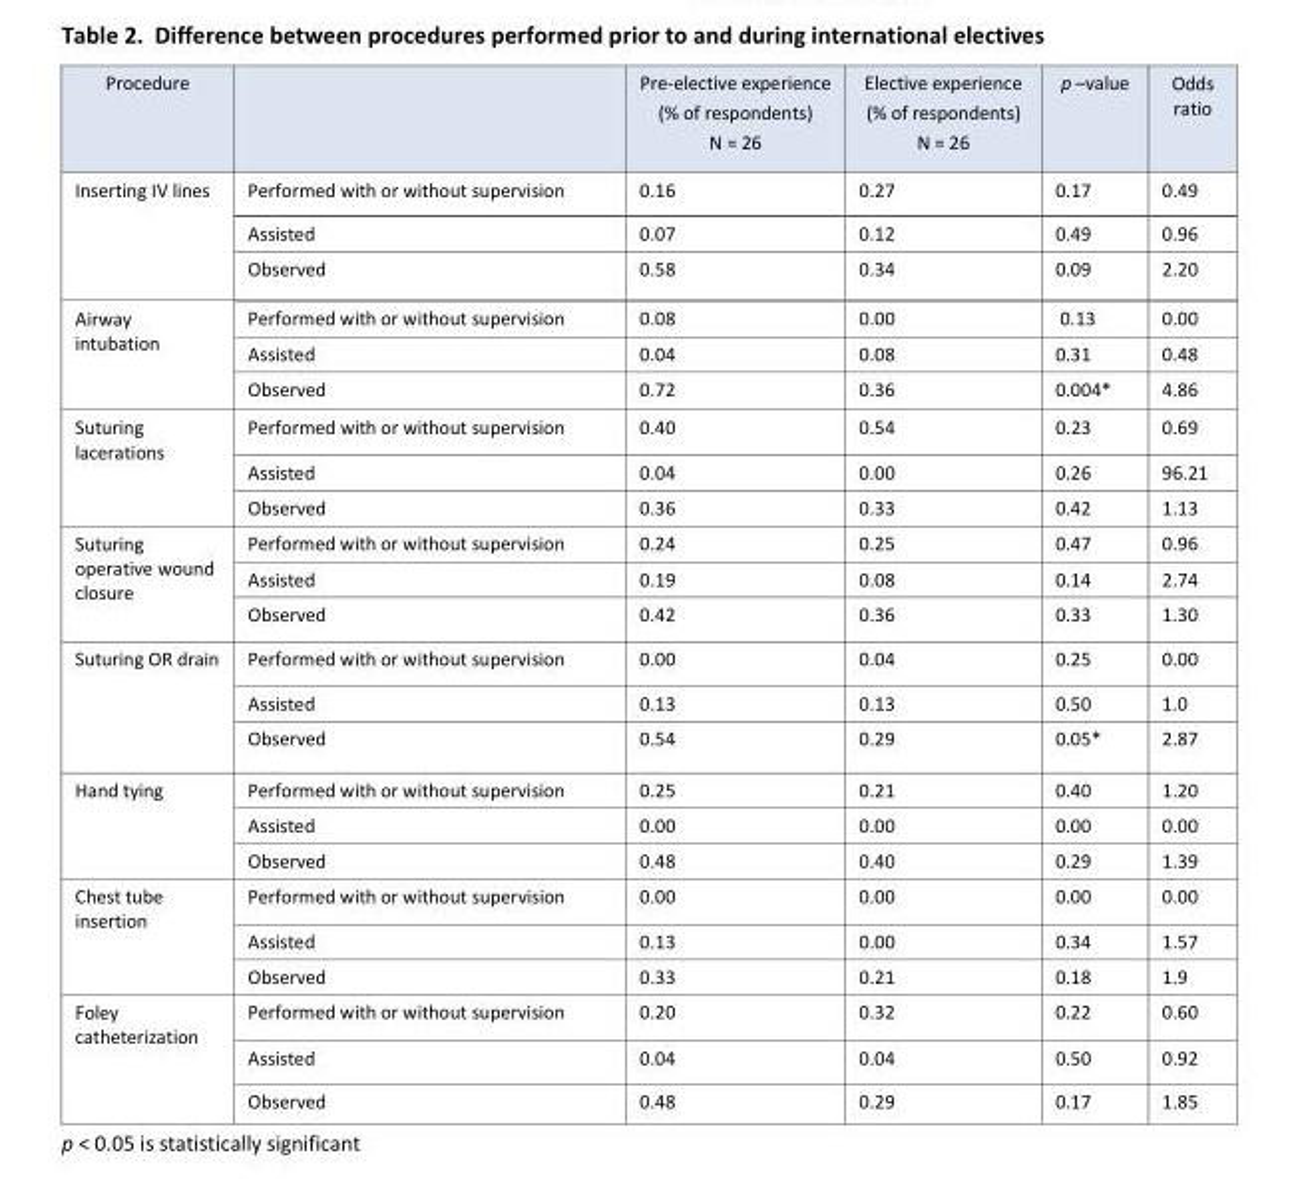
<table><thead><tr><td>Procedure</td><td></td><td>Pre-elective experience (% of respondents) N = 26</td><td>Elective experience (% of respondents) N = 26</td><td>p –value</td><td>Odds ratio</td></tr></thead><tbody><tr><td rowspan="3">Inserting IV lines</td><td>Performed with or without supervision</td><td>0.16</td><td>0.27</td><td>0.17</td><td>0.49</td></tr><tr><td>Assisted</td><td>0.07</td><td>0.12</td><td>0.49</td><td>0.96</td></tr><tr><td>Observed</td><td>0.58</td><td>0.34</td><td>0.09</td><td>2.20</td></tr><tr><td rowspan="3">Airway intubation</td><td>Performed with or without supervision</td><td>0.08</td><td>0.00</td><td>0.13</td><td>0.00</td></tr><tr><td>Assisted</td><td>0.04</td><td>0.08</td><td>0.31</td><td>0.48</td></tr><tr><td>Observed</td><td>0.72</td><td>0.36</td><td>0.004*</td><td>4.86</td></tr><tr><td rowspan="3">Suturing lacerations</td><td>Performed with or without supervision</td><td>0.40</td><td>0.54</td><td>0.23</td><td>0.69</td></tr><tr><td>Assisted</td><td>0.04</td><td>0.00</td><td>0.26</td><td>96.21</td></tr><tr><td>Observed</td><td>0.36</td><td>0.33</td><td>0.42</td><td>1.13</td></tr><tr><td rowspan="3">Suturing operative wound closure</td><td>Performed with or without supervision</td><td>0.24</td><td>0.25</td><td>0.47</td><td>0.96</td></tr><tr><td>Assisted</td><td>0.19</td><td>0.08</td><td>0.14</td><td>2.74</td></tr><tr><td>Observed</td><td>0.42</td><td>0.36</td><td>0.33</td><td>1.30</td></tr><tr><td rowspan="3">Suturing OR drain</td><td>Performed with or without supervision</td><td>0.00</td><td>0.04</td><td>0.25</td><td>0.00</td></tr><tr><td>Assisted</td><td>0.13</td><td>0.13</td><td>0.50</td><td>1.0</td></tr><tr><td>Observed</td><td>0.54</td><td>0.29</td><td>0.05*</td><td>2.87</td></tr><tr><td rowspan="3">Hand tying</td><td>Performed with or without supervision</td><td>0.25</td><td>0.21</td><td>0.40</td><td>1.20</td></tr><tr><td>Assisted</td><td>0.00</td><td>0.00</td><td>0.00</td><td>0.00</td></tr><tr><td>Observed</td><td>0.48</td><td>0.40</td><td>0.29</td><td>1.39</td></tr><tr><td rowspan="3">Chest tube insertion</td><td>Performed with or without supervision</td><td>0.00</td><td>0.00</td><td>0.00</td><td>0.00</td></tr><tr><td>Assisted</td><td>0.13</td><td>0.00</td><td>0.34</td><td>1.57</td></tr><tr><td>Observed</td><td>0.33</td><td>0.21</td><td>0.18</td><td>1.9</td></tr><tr><td rowspan="3">Foley catheterization</td><td>Performed with or without supervision</td><td>0.20</td><td>0.32</td><td>0.22</td><td>0.60</td></tr><tr><td>Assisted</td><td>0.04</td><td>0.04</td><td>0.50</td><td>0.92</td></tr><tr><td>Observed</td><td>0.48</td><td>0.29</td><td>0.17</td><td>1.85</td></tr></tbody></table>